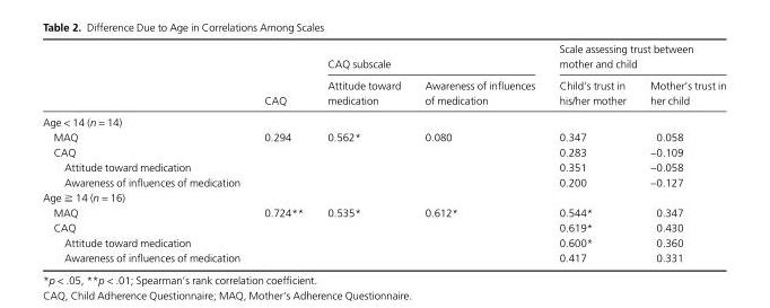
<table><thead><tr><td rowspan="2"></td><td rowspan="2">CAQ</td><td colspan="2">CAQ subscale</td><td colspan="2">Scale assessing trust between mother and child</td></tr><tr><td>Attitude toward medication</td><td>Awareness of influences of medication</td><td>Child’s trust in his/her mother</td><td>Mother’s trust in her child</td></tr></thead><tbody><tr><td colspan="6">Age &lt; 14 (n = 14)</td></tr><tr><td>MAQ</td><td>0.294</td><td>0.562*</td><td>0.080</td><td>0.347</td><td>0.058</td></tr><tr><td>CAQ</td><td></td><td></td><td></td><td>0.283</td><td>−0.109</td></tr><tr><td>Attitude toward medication</td><td></td><td></td><td></td><td>0.351</td><td>−0.058</td></tr><tr><td>Awareness of influences of medication</td><td></td><td></td><td></td><td>0.200</td><td>−0.127</td></tr><tr><td colspan="6">Age ≧ 14 (n = 16)</td></tr><tr><td>MAQ</td><td>0.724**</td><td>0.535*</td><td>0.612*</td><td>0.544*</td><td>0.347</td></tr><tr><td>CAQ</td><td></td><td></td><td></td><td>0.619*</td><td>0.430</td></tr><tr><td>Attitude toward medication</td><td></td><td></td><td></td><td>0.600*</td><td>0.360</td></tr><tr><td>Awareness of influences of medication</td><td></td><td></td><td></td><td>0.417</td><td>0.331</td></tr></tbody></table>